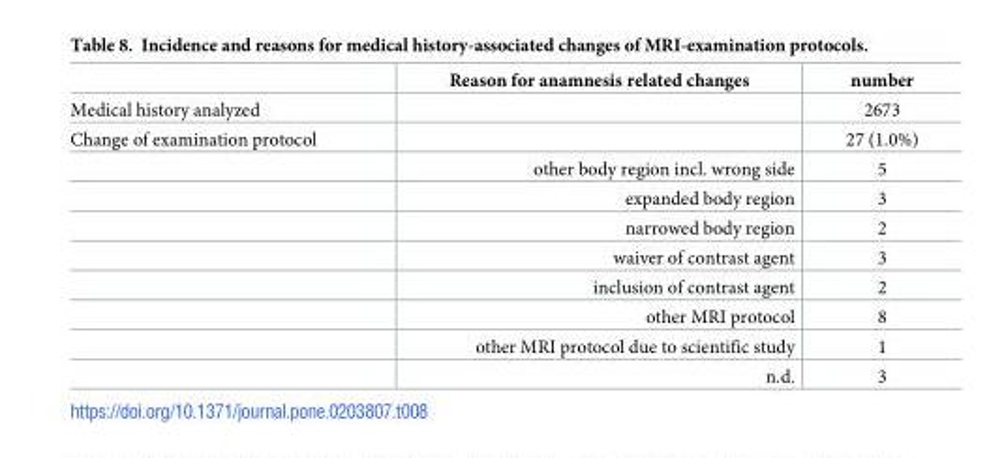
<table><thead><tr><td></td><td>Reason for anamnesis related changes</td><td>number</td></tr></thead><tbody><tr><td>Medical history analyzed</td><td></td><td>2673</td></tr><tr><td rowspan="9">Change of examination protocol</td><td></td><td>27 (1.0%)</td></tr><tr><td>other body region incl. wrong side</td><td>5</td></tr><tr><td>expanded body region</td><td>3</td></tr><tr><td>narrowed body region</td><td>2</td></tr><tr><td>waiver of contrast agent</td><td>3</td></tr><tr><td>inclusion of contrast agent</td><td>2</td></tr><tr><td>other MRI protocol</td><td>8</td></tr><tr><td>other MRI protocol due to scientific study</td><td>1</td></tr><tr><td>n.d.</td><td>3</td></tr></tbody></table>